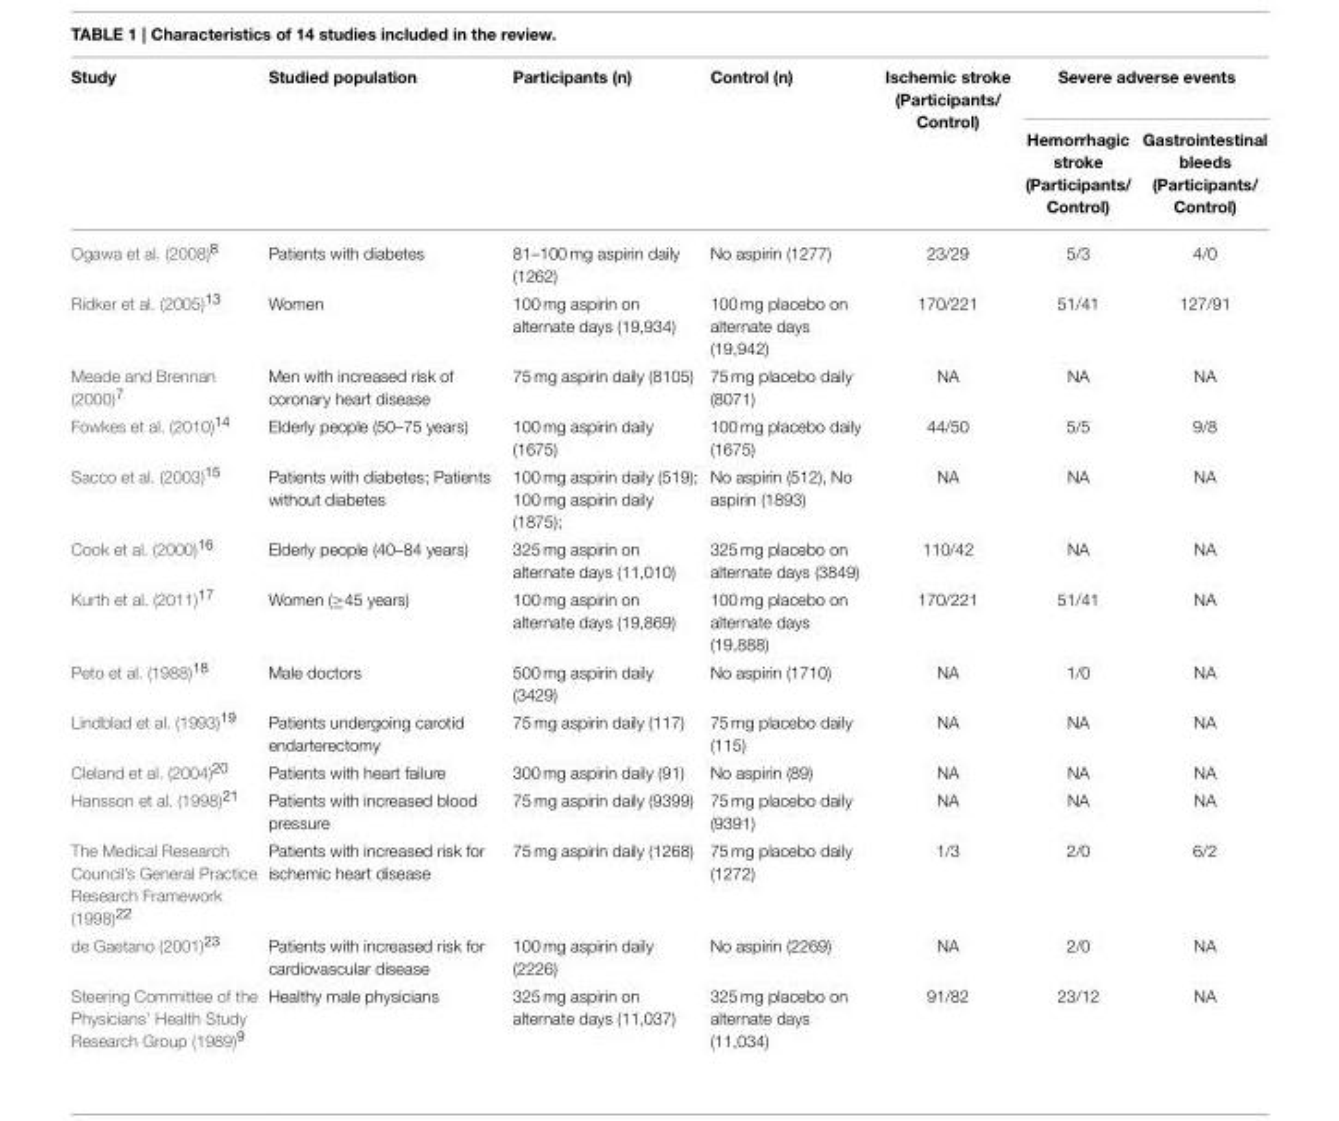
<table><thead><tr><td rowspan="2">Study</td><td rowspan="2">Studied population</td><td rowspan="2">Participants (n)</td><td rowspan="2">Control (n)</td><td rowspan="2">Ischemic stroke (Participants/ Control)</td><td colspan="2">Severe adverse events</td></tr><tr><td>Hemorrhagic stroke (Participants/ Control)</td><td>Gastrointestinal bleeds (Participants/ Control)</td></tr></thead><tbody><tr><td>Ogawa et al. (2008)<sup>8</sup></td><td>Patients with diabetes</td><td>81–100 mg aspirin daily (1262)</td><td>No aspirin (1277)</td><td>23/29</td><td>5/3</td><td>4/0</td></tr><tr><td>Ridker et al. (2005)<sup>13</sup></td><td>Women</td><td>100 mg aspirin on alternate days (19,934)</td><td>100 mg placebo on alternate days (19,942)</td><td>170/221</td><td>51/41</td><td>127/91</td></tr><tr><td>Meade and Brennan (2000)<sup>7</sup></td><td>Men with increased risk of coronary heart disease</td><td>75 mg aspirin daily (8105)</td><td>75 mg placebo daily (8071)</td><td>NA</td><td>NA</td><td>NA</td></tr><tr><td>Fowkes et al. (2010)<sup>14</sup></td><td>Elderly people (50–75 years)</td><td>100 mg aspirin daily (1675)</td><td>100 mg placebo daily (1675)</td><td>44/50</td><td>5/5</td><td>9/8</td></tr><tr><td>Sacco et al. (2003)<sup>15</sup></td><td>Patients with diabetes; Patients without diabetes</td><td>100 mg aspirin daily (519); 100 mg aspirin daily (1875);</td><td>No aspirin (512), No aspirin (1893)</td><td>NA</td><td>NA</td><td>NA</td></tr><tr><td>Cook et al. (2000)<sup>16</sup></td><td>Elderly people (40–84 years)</td><td>325 mg aspirin on alternate days (11,010)</td><td>325 mg placebo on alternate days (3849)</td><td>110/42</td><td>NA</td><td>NA</td></tr><tr><td>Kurth et al. (2011)<sup>17</sup></td><td>Women (≥45 years)</td><td>100 mg aspirin on alternate days (19,869)</td><td>100 mg placebo on alternate days (19,888)</td><td>170/221</td><td>51/41</td><td>NA</td></tr><tr><td>Peto et al. (1988)<sup>18</sup></td><td>Male doctors</td><td>500 mg aspirin daily (3429)</td><td>No aspirin (1710)</td><td>NA</td><td>1/0</td><td>NA</td></tr><tr><td>Lindblad et al. (1993)<sup>19</sup></td><td>Patients undergoing carotid endarterectomy</td><td>75 mg aspirin daily (117)</td><td>75 mg placebo daily (115)</td><td>NA</td><td>NA</td><td>NA</td></tr><tr><td>Cleland et al. (2004)<sup>20</sup></td><td>Patients with heart failure</td><td>300 mg aspirin daily (91)</td><td>No aspirin (89)</td><td>NA</td><td>NA</td><td>NA</td></tr><tr><td>Hansson et al. (1998)<sup>21</sup></td><td>Patients with increased blood pressure</td><td>75 mg aspirin daily (9399)</td><td>75 mg placebo daily (9391)</td><td>NA</td><td>NA</td><td>NA</td></tr><tr><td>The Medical Research Council’s General Practice Research Framework (1998)<sup>22</sup></td><td>Patients with increased risk for ischemic heart disease</td><td>75 mg aspirin daily (1268)</td><td>75 mg placebo daily (1272)</td><td>1/3</td><td>2/0</td><td>6/2</td></tr><tr><td>de Gaetano (2001)<sup>23</sup></td><td>Patients with increased risk for cardiovascular disease</td><td>100 mg aspirin daily (2226)</td><td>No aspirin (2269)</td><td>NA</td><td>2/0</td><td>NA</td></tr><tr><td>Steering Committee of the Physicians’ Health Study Research Group (1989)<sup>9</sup></td><td>Healthy male physicians</td><td>325 mg aspirin on alternate days (11,037)</td><td>325 mg placebo on alternate days (11,034)</td><td>91/82</td><td>23/12</td><td>NA</td></tr></tbody></table>